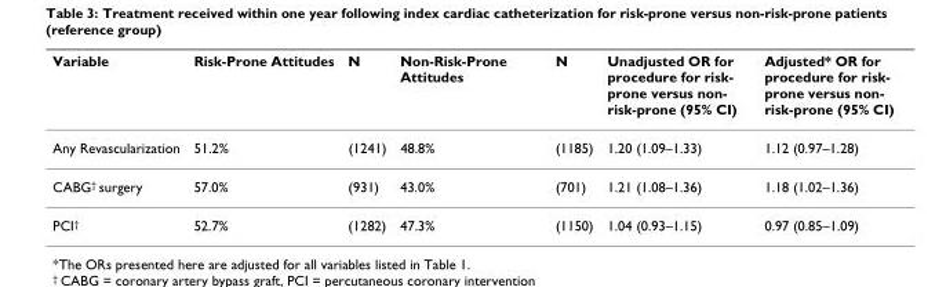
<table><thead><tr><td>Variable</td><td>Risk-Prone Attitudes</td><td>N</td><td>Non-Risk-Prone Attitudes</td><td>N</td><td>Unadjusted OR for procedure for risk- prone versus non- risk-prone (95% CI)</td><td>Adjusted* OR for procedure for risk- prone versus non- risk-prone (95% CI)</td></tr></thead><tbody><tr><td>Any Revascularization</td><td>51.2%</td><td>(1241)</td><td>48.8%</td><td>(1185)</td><td>1.20 (1.09–1.33)</td><td>1.12 (0.97–1.28)</td></tr><tr><td>CABG<sup>†</sup> surgery</td><td>57.0%</td><td>(931)</td><td>43.0%</td><td>(701)</td><td>1.21 (1.08–1.36)</td><td>1.18 (1.02–1.36)</td></tr><tr><td>PCI<sup>†</sup></td><td>52.7%</td><td>(1282)</td><td>47.3%</td><td>(1150)</td><td>1.04 (0.93–1.15)</td><td>0.97 (0.85–1.09)</td></tr></tbody></table>